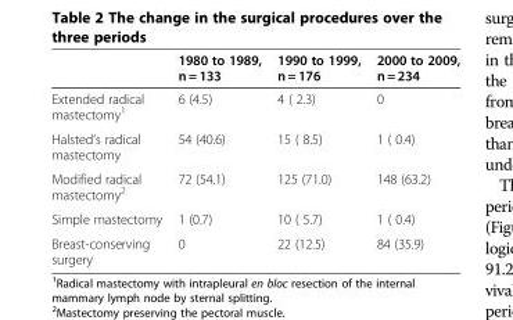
<table><thead><tr><td></td><td>1980 to 1989, n = 133</td><td>1990 to 1999, n = 176</td><td>2000 to 2009, n = 234</td></tr></thead><tbody><tr><td>Extended radical mastectomy<sup>1</sup></td><td>6 (4.5)</td><td>4 ( 2.3)</td><td>0</td></tr><tr><td>Halsted’s radical mastectomy</td><td>54 (40.6)</td><td>15 ( 8.5)</td><td>1 ( 0.4)</td></tr><tr><td>Modified radical mastectomy<sup>2</sup></td><td>72 (54.1)</td><td>125 (71.0)</td><td>148 (63.2)</td></tr><tr><td>Simple mastectomy</td><td>1 (0.7)</td><td>10 ( 5.7)</td><td>1 ( 0.4)</td></tr><tr><td>Breast-conserving surgery</td><td>0</td><td>22 (12.5)</td><td>84 (35.9)</td></tr></tbody></table>